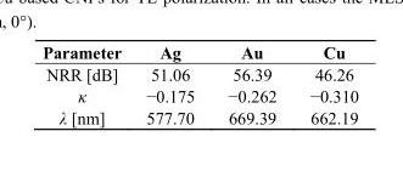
<table><thead><tr><td>Parameter</td><td>Ag</td><td>Au</td><td>Cu</td></tr></thead><tbody><tr><td>NRR [dB]</td><td>51.06</td><td>56.39</td><td>46.26</td></tr><tr><td>κ</td><td>−0.175</td><td>−0.262</td><td>−0.310</td></tr><tr><td>λ [nm]</td><td>577.70</td><td>669.39</td><td>662.19</td></tr></tbody></table>